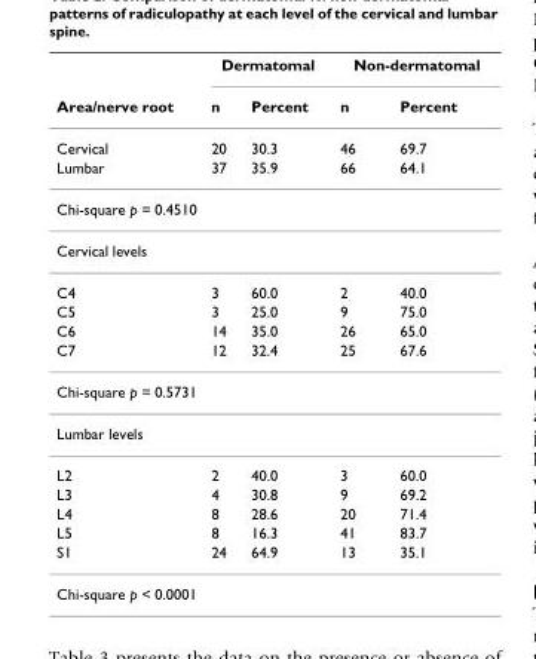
<table><thead><tr><td rowspan="2">Area/nerve root</td><td colspan="2">Dermatomal</td><td colspan="2">Non-dermatomal</td></tr><tr><td>n</td><td>Percent</td><td>n</td><td>Percent</td></tr></thead><tbody><tr><td>Cervical</td><td>20</td><td>30.3</td><td>46</td><td>69.7</td></tr><tr><td>Lumbar</td><td>37</td><td>35.9</td><td>66</td><td>64.1</td></tr><tr><td colspan="5">Chi-square p = 0.4510</td></tr><tr><td colspan="5">Cervical levels</td></tr><tr><td>C4</td><td>3</td><td>60.0</td><td>2</td><td>40.0</td></tr><tr><td>C5</td><td>3</td><td>25.0</td><td>9</td><td>75.0</td></tr><tr><td>C6</td><td>14</td><td>35.0</td><td>26</td><td>65.0</td></tr><tr><td>C7</td><td>12</td><td>32.4</td><td>25</td><td>67.6</td></tr><tr><td colspan="5">Chi-square p = 0.5731</td></tr><tr><td colspan="5">Lumbar levels</td></tr><tr><td>L2</td><td>2</td><td>40.0</td><td>3</td><td>60.0</td></tr><tr><td>L3</td><td>4</td><td>30.8</td><td>9</td><td>69.2</td></tr><tr><td>L4</td><td>8</td><td>28.6</td><td>20</td><td>71.4</td></tr><tr><td>L5</td><td>8</td><td>16.3</td><td>41</td><td>83.7</td></tr><tr><td>S1</td><td>24</td><td>64.9</td><td>13</td><td>35.1</td></tr><tr><td colspan="5">Chi-square p &lt; 0.0001</td></tr></tbody></table>